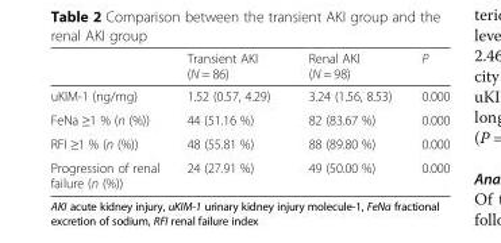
<table><thead><tr><td></td><td>Transient AKI (N = 86)</td><td>Renal AKI (N = 98)</td><td>P</td></tr></thead><tbody><tr><td>uKIM-1 (ng/mg)</td><td>1.52 (0.57, 4.29)</td><td>3.24 (1.56, 8.53)</td><td>0.000</td></tr><tr><td>FeNa ≥1 % (n (%))</td><td>44 (51.16 %)</td><td>82 (83.67 %)</td><td>0.000</td></tr><tr><td>RFI ≥1 % (n (%))</td><td>48 (55.81 %)</td><td>88 (89.80 %)</td><td>0.000</td></tr><tr><td>Progression of renal failure (n (%))</td><td>24 (27.91 %)</td><td>49 (50.00 %)</td><td>0.000</td></tr></tbody></table>